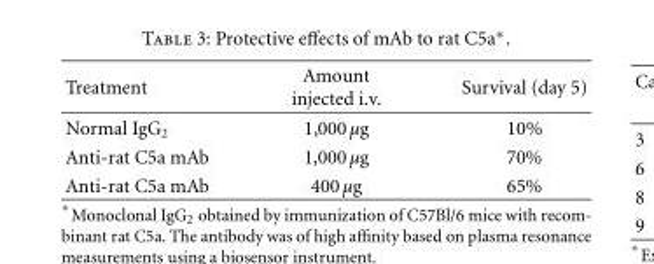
<table><thead><tr><td>Treatment</td><td>Amount injected i.v.</td><td>Survival (day 5)</td></tr></thead><tbody><tr><td>Normal IgG<sub>2</sub></td><td>1,000 µg</td><td>10%</td></tr><tr><td>Anti-rat C5a mAb</td><td>1,000 µg</td><td>70%</td></tr><tr><td>Anti-rat C5a mAb</td><td>400 µg</td><td>65%</td></tr></tbody></table>